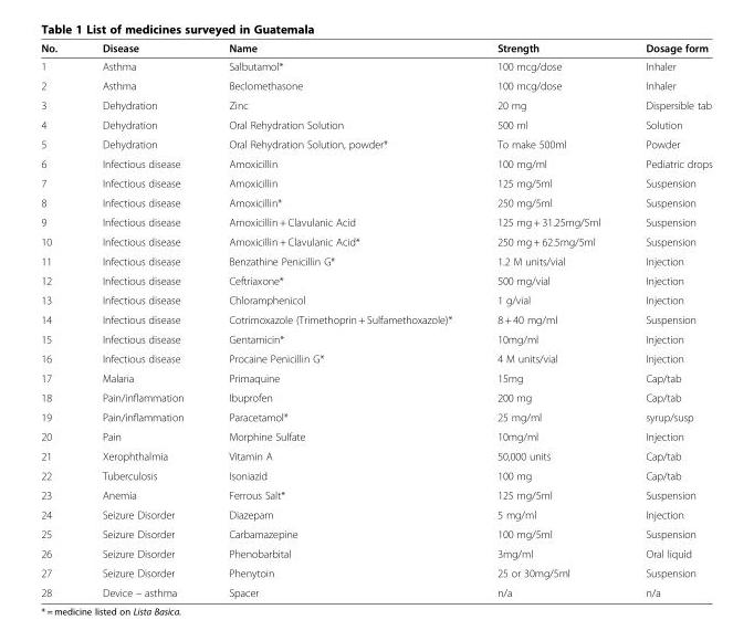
<table><thead><tr><td>No.</td><td>Disease</td><td>Name</td><td>Strength</td><td>Dosage form</td></tr></thead><tbody><tr><td>1</td><td>Asthma</td><td>Salbutamol*</td><td>100 mcg/dose</td><td>Inhaler</td></tr><tr><td>2</td><td>Asthma</td><td>Beclomethasone</td><td>100 mcg/dose</td><td>Inhaler</td></tr><tr><td>3</td><td>Dehydration</td><td>Zinc</td><td>20 mg</td><td>Dispersible tab</td></tr><tr><td>4</td><td>Dehydration</td><td>Oral Rehydration Solution</td><td>500 ml</td><td>Solution</td></tr><tr><td>5</td><td>Dehydration</td><td>Oral Rehydration Solution, powder*</td><td>To make 500ml</td><td>Powder</td></tr><tr><td>6</td><td>Infectious disease</td><td>Amoxicillin</td><td>100 mg/ml</td><td>Pediatric drops</td></tr><tr><td>7</td><td>Infectious disease</td><td>Amoxicillin</td><td>125 mg/5ml</td><td>Suspension</td></tr><tr><td>8</td><td>Infectious disease</td><td>Amoxicillin*</td><td>250 mg/5ml</td><td>Suspension</td></tr><tr><td>9</td><td>Infectious disease</td><td>Amoxicillin + Clavulanic Acid</td><td>125 mg + 31.25mg/5ml</td><td>Suspension</td></tr><tr><td>10</td><td>Infectious disease</td><td>Amoxicillin + Clavulanic Acid*</td><td>250 mg + 62.5mg/5ml</td><td>Suspension</td></tr><tr><td>11</td><td>Infectious disease</td><td>Benzathine Penicillin G*</td><td>1.2 M units/vial</td><td>Injection</td></tr><tr><td>12</td><td>Infectious disease</td><td>Ceftriaxone*</td><td>500 mg/vial</td><td>Injection</td></tr><tr><td>13</td><td>Infectious disease</td><td>Chloramphenicol</td><td>1 g/vial</td><td>Injection</td></tr><tr><td>14</td><td>Infectious disease</td><td>Cotrimoxazole (Trimethoprin + Sulfamethoxazole)*</td><td>8 + 40 mg/ml</td><td>Suspension</td></tr><tr><td>15</td><td>Infectious disease</td><td>Gentamicin*</td><td>10mg/ml</td><td>Injection</td></tr><tr><td>16</td><td>Infectious disease</td><td>Procaine Penicillin G*</td><td>4 M units/vial</td><td>Injection</td></tr><tr><td>17</td><td>Malaria</td><td>Primaquine</td><td>15mg</td><td>Cap/tab</td></tr><tr><td>18</td><td>Pain/inflammation</td><td>Ibuprofen</td><td>200 mg</td><td>Cap/tab</td></tr><tr><td>19</td><td>Pain/inflammation</td><td>Paracetamol*</td><td>25 mg/ml</td><td>syrup/susp</td></tr><tr><td>20</td><td>Pain</td><td>Morphine Sulfate</td><td>10mg/ml</td><td>Injection</td></tr><tr><td>21</td><td>Xerophthalmia</td><td>Vitamin A</td><td>50,000 units</td><td>Cap/tab</td></tr><tr><td>22</td><td>Tuberculosis</td><td>Isoniazid</td><td>100 mg</td><td>Cap/tab</td></tr><tr><td>23</td><td>Anemia</td><td>Ferrous Salt*</td><td>125 mg/5ml</td><td>Suspension</td></tr><tr><td>24</td><td>Seizure Disorder</td><td>Diazepam</td><td>5 mg/ml</td><td>Injection</td></tr><tr><td>25</td><td>Seizure Disorder</td><td>Carbamazepine</td><td>100 mg/5ml</td><td>Suspension</td></tr><tr><td>26</td><td>Seizure Disorder</td><td>Phenobarbital</td><td>3mg/ml</td><td>Oral liquid</td></tr><tr><td>27</td><td>Seizure Disorder</td><td>Phenytoin</td><td>25 or 30mg/5ml</td><td>Suspension</td></tr><tr><td>28</td><td>Device – asthma</td><td>Spacer</td><td>n/a</td><td>n/a</td></tr></tbody></table>